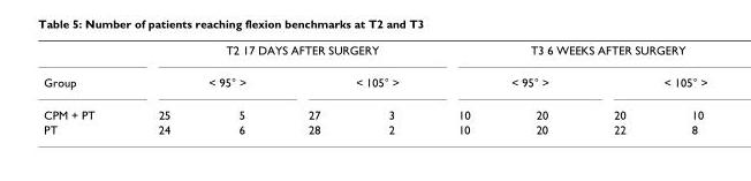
<table><thead><tr><td rowspan="3">Group CPM + PT</td><td colspan="4">T2 17 DAYS AFTER SURGERY</td><td colspan="4">T3 6 WEEKS AFTER SURGERY</td></tr><tr><td colspan="2">&lt; 95° &gt;</td><td colspan="2">&lt; 105° &gt;</td><td colspan="2">&lt; 95° &gt;</td><td colspan="2">&lt; 105° &gt;</td></tr><tr><td>25</td><td>5</td><td>27</td><td>3</td><td>10</td><td>20</td><td>20</td><td>10</td></tr></thead><tbody><tr><td>PT</td><td>24</td><td>6</td><td>28</td><td>2</td><td>10</td><td>20</td><td>22</td><td>8</td></tr></tbody></table>